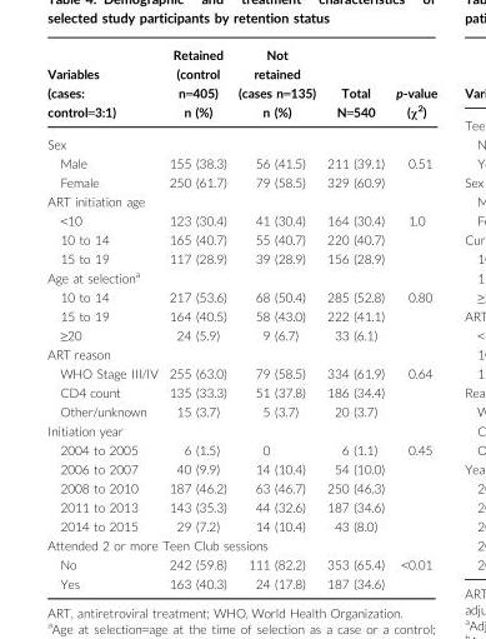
<table><thead><tr><td>Variables (cases: control=3:1)</td><td>Retained (control n=405) n (%)</td><td>Not retained (cases n=135) n (%)</td><td>Total N=540</td><td>p-value (χ<sup>2</sup>)</td></tr></thead><tbody><tr><td colspan="5">Sex</td></tr><tr><td>Male</td><td>155 (38.3)</td><td>56 (41.5)</td><td>211 (39.1)</td><td rowspan="2">0.51</td></tr><tr><td>Female</td><td>250 (61.7)</td><td>79 (58.5)</td><td>329 (60.9)</td></tr><tr><td colspan="5">ART initiation age</td></tr><tr><td>&lt;10</td><td>123 (30.4)</td><td>41 (30.4)</td><td>164 (30.4)</td><td rowspan="3">1.0</td></tr><tr><td>10 to 14</td><td>165 (40.7)</td><td>55 (40.7)</td><td>220 (40.7)</td></tr><tr><td>15 to 19</td><td>117 (28.9)</td><td>39 (28.9)</td><td>156 (28.9)</td></tr><tr><td colspan="5">Age at selection<sup>a</sup></td></tr><tr><td>10 to 14</td><td>217 (53.6)</td><td>68 (50.4)</td><td>285 (52.8)</td><td rowspan="3">0.80</td></tr><tr><td>15 to 19</td><td>164 (40.5)</td><td>58 (43.0)</td><td>222 (41.1)</td></tr><tr><td>≥20</td><td>24 (5.9)</td><td>9 (6.7)</td><td>33 (6.1)</td></tr><tr><td colspan="5">ART reason</td></tr><tr><td>WHO Stage III/IV</td><td>255 (63.0)</td><td>79 (58.5)</td><td>334 (61.9)</td><td rowspan="3">0.64</td></tr><tr><td>CD4 count</td><td>135 (33.3)</td><td>51 (37.8)</td><td>186 (34.4)</td></tr><tr><td>Other/unknown</td><td>15 (3.7)</td><td>5 (3.7)</td><td>20 (3.7)</td></tr><tr><td colspan="5">Initiation year</td></tr><tr><td>2004 to 2005</td><td>6 (1.5)</td><td>0</td><td>6 (1.1)</td><td rowspan="5">0.45</td></tr><tr><td>2006 to 2007</td><td>40 (9.9)</td><td>14 (10.4)</td><td>54 (10.0)</td></tr><tr><td>2008 to 2010</td><td>187 (46.2)</td><td>63 (46.7)</td><td>250 (46.3)</td></tr><tr><td>2011 to 2013</td><td>143 (35.3)</td><td>44 (32.6)</td><td>187 (34.6)</td></tr><tr><td>2014 to 2015</td><td>29 (7.2)</td><td>14 (10.4)</td><td>43 (8.0)</td></tr><tr><td colspan="5">Attended 2 or more Teen Club sessions</td></tr><tr><td>No</td><td>242 (59.8)</td><td>111 (82.2)</td><td>353 (65.4)</td><td rowspan="2">&lt;0.01</td></tr><tr><td>Yes</td><td>163 (40.3)</td><td>24 (17.8)</td><td>187 (34.6)</td></tr></tbody></table>